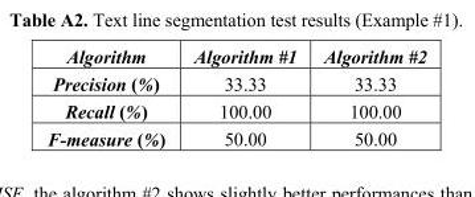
<table><thead><tr><td>Algorithm</td><td>Algorithm #1</td><td>Algorithm #2</td></tr></thead><tbody><tr><td>Precision (%)</td><td>33.33</td><td>33.33</td></tr><tr><td>Recall (%)</td><td>100.00</td><td>100.00</td></tr><tr><td>F-measure (%)</td><td>50.00</td><td>50.00</td></tr></tbody></table>